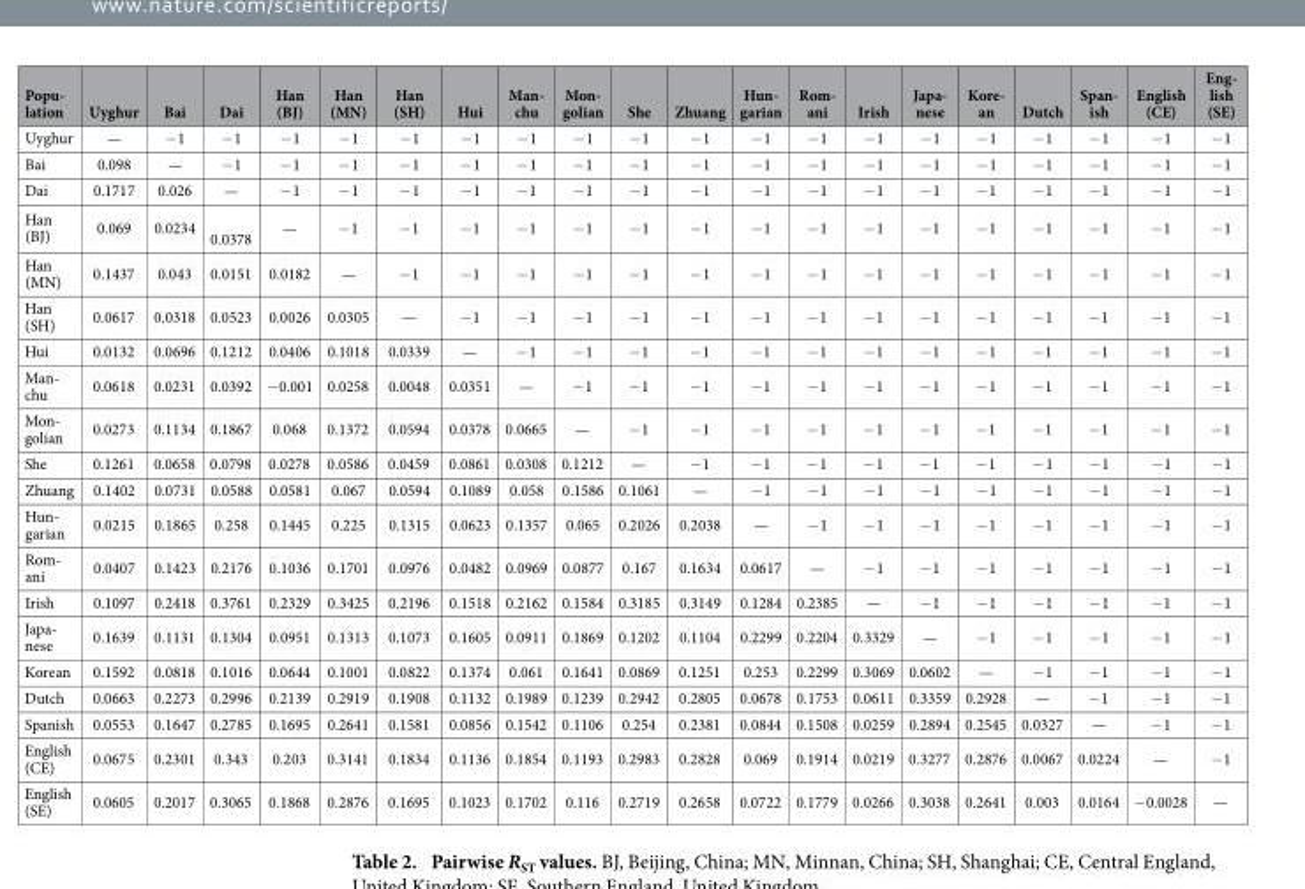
<table><thead><tr><td>Popu- lation</td><td>Uyghur</td><td>Bai</td><td>Dai</td><td>Han (BJ)</td><td>Han (MN)</td><td>Han (SH)</td><td>Hui</td><td>Man- chu</td><td>Mon- golian</td><td>She</td><td>Zhuang</td><td>Hun- garian</td><td>Rom- ani</td><td>Irish</td><td>Japa- nese</td><td>Kore- an</td><td>Dutch</td><td>Span- ish</td><td>English (CE)</td><td>Eng- lish (SE)</td></tr></thead><tbody><tr><td>Uyghur</td><td>—</td><td>− 1</td><td>− 1</td><td>− 1</td><td>− 1</td><td>− 1</td><td>− 1</td><td>− 1</td><td>− 1</td><td>− 1</td><td>− 1</td><td>− 1</td><td>− 1</td><td>− 1</td><td>− 1</td><td>− 1</td><td>− 1</td><td>− 1</td><td>− 1</td><td>− 1</td></tr><tr><td>Bai</td><td>0.098</td><td>—</td><td>− 1</td><td>− 1</td><td>− 1</td><td>− 1</td><td>− 1</td><td>− 1</td><td>− 1</td><td>− 1</td><td>− 1</td><td>− 1</td><td>− 1</td><td>− 1</td><td>− 1</td><td>− 1</td><td>− 1</td><td>− 1</td><td>− 1</td><td>− 1</td></tr><tr><td>Dai</td><td>0.1717</td><td>0.026</td><td>—</td><td>− 1</td><td>− 1</td><td>− 1</td><td>− 1</td><td>− 1</td><td>− 1</td><td>− 1</td><td>− 1</td><td>− 1</td><td>− 1</td><td>− 1</td><td>− 1</td><td>− 1</td><td>− 1</td><td>− 1</td><td>− 1</td><td>− 1</td></tr><tr><td>Han (BJ)</td><td>0.069</td><td>0.0234</td><td>0.0378</td><td>—</td><td>− 1</td><td>− 1</td><td>− 1</td><td>− 1</td><td>− 1</td><td>− 1</td><td>− 1</td><td>− 1</td><td>− 1</td><td>− 1</td><td>− 1</td><td>− 1</td><td>− 1</td><td>− 1</td><td>− 1</td><td>− 1</td></tr><tr><td>Han (MN)</td><td>0.1437</td><td>0.043</td><td>0.0151</td><td>0.0182</td><td>—</td><td>− 1</td><td>− 1</td><td>− 1</td><td>− 1</td><td>− 1</td><td>− 1</td><td>− 1</td><td>− 1</td><td>− 1</td><td>− 1</td><td>− 1</td><td>− 1</td><td>− 1</td><td>− 1</td><td>− 1</td></tr><tr><td>Han (SH)</td><td>0.0617</td><td>0.0318</td><td>0.0523</td><td>0.0026</td><td>0.0305</td><td>—</td><td>− 1</td><td>− 1</td><td>− 1</td><td>− 1</td><td>− 1</td><td>− 1</td><td>− 1</td><td>− 1</td><td>− 1</td><td>− 1</td><td>− 1</td><td>− 1</td><td>− 1</td><td>− 1</td></tr><tr><td>Hui</td><td>0.0132</td><td>0.0696</td><td>0.1212</td><td>0.0406</td><td>0.1018</td><td>0.0339</td><td>—</td><td>− 1</td><td>− 1</td><td>− 1</td><td>− 1</td><td>− 1</td><td>− 1</td><td>− 1</td><td>− 1</td><td>− 1</td><td>− 1</td><td>− 1</td><td>− 1</td><td>− 1</td></tr><tr><td>Man- chu</td><td>0.0618</td><td>0.0231</td><td>0.0392</td><td>− 0.001</td><td>0.0258</td><td>0.0048</td><td>0.0351</td><td>—</td><td>− 1</td><td>− 1</td><td>− 1</td><td>− 1</td><td>− 1</td><td>− 1</td><td>− 1</td><td>− 1</td><td>− 1</td><td>− 1</td><td>− 1</td><td>− 1</td></tr><tr><td>Mon- golian</td><td>0.0273</td><td>0.1134</td><td>0.1867</td><td>0.068</td><td>0.1372</td><td>0.0594</td><td>0.0378</td><td>0.0665</td><td>—</td><td>− 1</td><td>− 1</td><td>− 1</td><td>− 1</td><td>− 1</td><td>− 1</td><td>− 1</td><td>− 1</td><td>− 1</td><td>− 1</td><td>− 1</td></tr><tr><td>She</td><td>0.1261</td><td>0.0658</td><td>0.0798</td><td>0.0278</td><td>0.0586</td><td>0.0459</td><td>0.0861</td><td>0.0308</td><td>0.1212</td><td>—</td><td>− 1</td><td>− 1</td><td>− 1</td><td>− 1</td><td>− 1</td><td>− 1</td><td>− 1</td><td>− 1</td><td>− 1</td><td>− 1</td></tr><tr><td>Zhuang</td><td>0.1402</td><td>0.0731</td><td>0.0588</td><td>0.0581</td><td>0.067</td><td>0.0594</td><td>0.1089</td><td>0.058</td><td>0.1586</td><td>0.1061</td><td>—</td><td>− 1</td><td>− 1</td><td>− 1</td><td>− 1</td><td>− 1</td><td>− 1</td><td>− 1</td><td>− 1</td><td>− 1</td></tr><tr><td>Hun- garian</td><td>0.0215</td><td>0.1865</td><td>0.258</td><td>0.1445</td><td>0.225</td><td>0.1315</td><td>0.0623</td><td>0.1357</td><td>0.065</td><td>0.2026</td><td>0.2038</td><td>—</td><td>− 1</td><td>− 1</td><td>− 1</td><td>− 1</td><td>− 1</td><td>− 1</td><td>− 1</td><td>− 1</td></tr><tr><td>Rom- ani</td><td>0.0407</td><td>0.1423</td><td>0.2176</td><td>0.1036</td><td>0.1701</td><td>0.0976</td><td>0.0482</td><td>0.0969</td><td>0.0877</td><td>0.167</td><td>0.1634</td><td>0.0617</td><td>—</td><td>− 1</td><td>− 1</td><td>− 1</td><td>− 1</td><td>− 1</td><td>− 1</td><td>− 1</td></tr><tr><td>Irish</td><td>0.1097</td><td>0.2418</td><td>0.3761</td><td>0.2329</td><td>0.3425</td><td>0.2196</td><td>0.1518</td><td>0.2162</td><td>0.1584</td><td>0.3185</td><td>0.3149</td><td>0.1284</td><td>0.2385</td><td>—</td><td>− 1</td><td>− 1</td><td>− 1</td><td>− 1</td><td>− 1</td><td>− 1</td></tr><tr><td>Japa- nese</td><td>0.1639</td><td>0.1131</td><td>0.1304</td><td>0.0951</td><td>0.1313</td><td>0.1073</td><td>0.1605</td><td>0.0911</td><td>0.1869</td><td>0.1202</td><td>0.1104</td><td>0.2299</td><td>0.2204</td><td>0.3329</td><td>—</td><td>− 1</td><td>− 1</td><td>− 1</td><td>− 1</td><td>− 1</td></tr><tr><td>Korean</td><td>0.1592</td><td>0.0818</td><td>0.1016</td><td>0.0644</td><td>0.1001</td><td>0.0822</td><td>0.1374</td><td>0.061</td><td>0.1641</td><td>0.0869</td><td>0.1251</td><td>0.253</td><td>0.2299</td><td>0.3069</td><td>0.0602</td><td>—</td><td>− 1</td><td>− 1</td><td>− 1</td><td>− 1</td></tr><tr><td>Dutch</td><td>0.0663</td><td>0.2273</td><td>0.2996</td><td>0.2139</td><td>0.2919</td><td>0.1908</td><td>0.1132</td><td>0.1989</td><td>0.1239</td><td>0.2942</td><td>0.2805</td><td>0.0678</td><td>0.1753</td><td>0.0611</td><td>0.3359</td><td>0.2928</td><td>—</td><td>− 1</td><td>− 1</td><td>− 1</td></tr><tr><td>Spanish</td><td>0.0553</td><td>0.1647</td><td>0.2785</td><td>0.1695</td><td>0.2641</td><td>0.1581</td><td>0.0856</td><td>0.1542</td><td>0.1106</td><td>0.254</td><td>0.2381</td><td>0.0844</td><td>0.1508</td><td>0.0259</td><td>0.2894</td><td>0.2545</td><td>0.0327</td><td>—</td><td>− 1</td><td>− 1</td></tr><tr><td>English (CE)</td><td>0.0675</td><td>0.2301</td><td>0.343</td><td>0.203</td><td>0.3141</td><td>0.1834</td><td>0.1136</td><td>0.1854</td><td>0.1193</td><td>0.2983</td><td>0.2828</td><td>0.069</td><td>0.1914</td><td>0.0219</td><td>0.3277</td><td>0.2876</td><td>0.0067</td><td>0.0224</td><td>—</td><td>− 1</td></tr><tr><td>English (SE)</td><td>0.0605</td><td>0.2017</td><td>0.3065</td><td>0.1868</td><td>0.2876</td><td>0.1695</td><td>0.1023</td><td>0.1702</td><td>0.116</td><td>0.2719</td><td>0.2658</td><td>0.0722</td><td>0.1779</td><td>0.0266</td><td>0.3038</td><td>0.2641</td><td>0.003</td><td>0.0164</td><td>− 0.0028</td><td>—</td></tr></tbody></table>